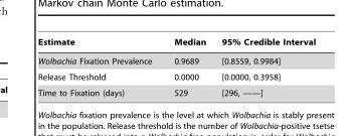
<table><thead><tr><td>Estimate</td><td>Median</td><td>95% Credible Interval</td></tr></thead><tbody><tr><td>Wolbachia Fixation Prevalence</td><td>0.9689</td><td>[0.8559, 0.9984]</td></tr><tr><td>Release Threshold</td><td>0.0000</td><td>[0.0000, 0.3958]</td></tr><tr><td>Time to Fixation (days)</td><td>529</td><td>[296, ——]</td></tr></tbody></table>